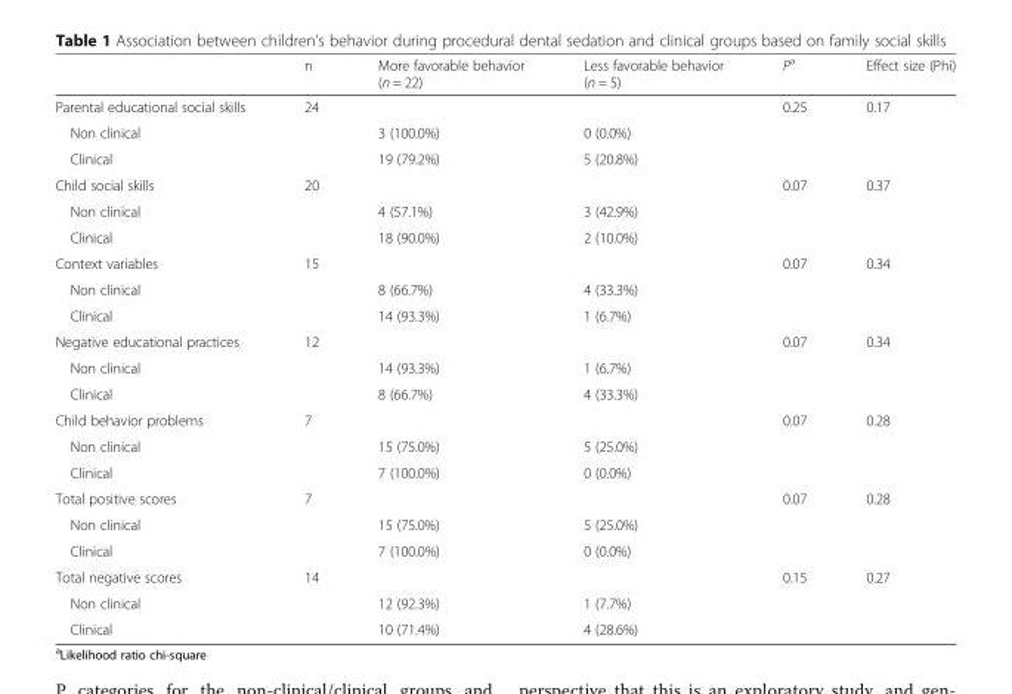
<table><thead><tr><td></td><td>n</td><td>More favorable behavior (n = 22)</td><td>Less favorable behavior (n = 5)</td><td>P<sup>a</sup></td><td>Effect size (Phi)</td></tr></thead><tbody><tr><td>Parental educational social skills</td><td>24</td><td></td><td></td><td>0.25</td><td>0.17</td></tr><tr><td>Non clinical</td><td></td><td>3 (100.0%)</td><td>0 (0.0%)</td><td></td><td rowspan="2"></td></tr><tr><td>Clinical</td><td></td><td>19 (79.2%)</td><td>5 (20.8%)</td><td></td></tr><tr><td>Child social skills</td><td>20</td><td></td><td></td><td>0.07</td><td>0.37</td></tr><tr><td>Non clinical</td><td></td><td>4 (57.1%)</td><td>3 (42.9%)</td><td></td><td rowspan="2"></td></tr><tr><td>Clinical</td><td></td><td>18 (90.0%)</td><td>2 (10.0%)</td><td></td></tr><tr><td>Context variables</td><td>15</td><td></td><td></td><td>0.07</td><td>0.34</td></tr><tr><td>Non clinical</td><td></td><td>8 (66.7%)</td><td>4 (33.3%)</td><td></td><td rowspan="2"></td></tr><tr><td>Clinical</td><td></td><td>14 (93.3%)</td><td>1 (6.7%)</td><td></td></tr><tr><td>Negative educational practices</td><td>12</td><td></td><td></td><td>0.07</td><td>0.34</td></tr><tr><td>Non clinical</td><td></td><td>14 (93.3%)</td><td>1 (6.7%)</td><td></td><td rowspan="2"></td></tr><tr><td>Clinical</td><td></td><td>8 (66.7%)</td><td>4 (33.3%)</td><td></td></tr><tr><td>Child behavior problems</td><td>7</td><td></td><td></td><td>0.07</td><td>0.28</td></tr><tr><td>Non clinical</td><td></td><td>15 (75.0%)</td><td>5 (25.0%)</td><td></td><td rowspan="2"></td></tr><tr><td>Clinical</td><td></td><td>7 (100.0%)</td><td>0 (0.0%)</td><td></td></tr><tr><td>Total positive scores</td><td>7</td><td></td><td></td><td>0.07</td><td>0.28</td></tr><tr><td>Non clinical</td><td></td><td>15 (75.0%)</td><td>5 (25.0%)</td><td></td><td rowspan="2"></td></tr><tr><td>Clinical</td><td></td><td>7 (100.0%)</td><td>0 (0.0%)</td><td></td></tr><tr><td>Total negative scores</td><td>14</td><td></td><td></td><td>0.15</td><td>0.27</td></tr><tr><td>Non clinical</td><td></td><td>12 (92.3%)</td><td>1 (7.7%)</td><td></td><td rowspan="2"></td></tr><tr><td>Clinical</td><td></td><td>10 (71.4%)</td><td>4 (28.6%)</td><td></td></tr></tbody></table>